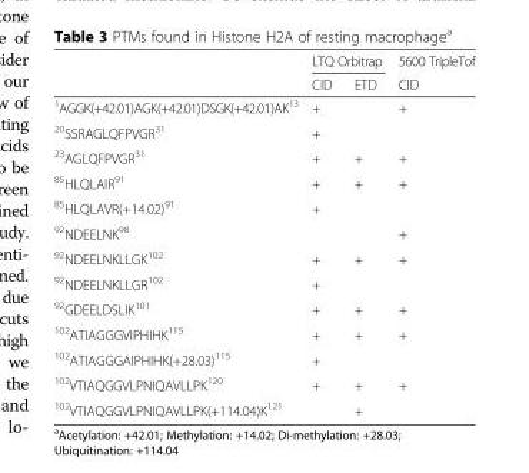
<table><thead><tr><td rowspan="2"></td><td colspan="2">LTQ Orbitrap</td><td rowspan="2">5600 TripleTof CID</td></tr><tr><td>CID</td><td>ETD</td></tr></thead><tbody><tr><td><sup>1</sup>AGGK(+42.01)AGK(+42.01)DSGK(+42.01)AK<sup>13</sup></td><td>+</td><td></td><td>+</td></tr><tr><td><sup>20</sup>SSRAGLQFPVGR<sup>31</sup></td><td>+</td><td></td><td></td></tr><tr><td><sup>23</sup>AGLQFPVGR<sup>31</sup></td><td>+</td><td>+</td><td>+</td></tr><tr><td><sup>85</sup>HLQLAIR<sup>91</sup></td><td>+</td><td>+</td><td>+</td></tr><tr><td><sup>85</sup>HLQLAVR(+14.02)<sup>91</sup></td><td>+</td><td></td><td></td></tr><tr><td><sup>92</sup>NDEELNK<sup>98</sup></td><td></td><td></td><td>+</td></tr><tr><td><sup>92</sup>NDEELNKLLGK<sup>102</sup></td><td>+</td><td>+</td><td>+</td></tr><tr><td><sup>92</sup>NDEELNKLLGR<sup>102</sup></td><td>+</td><td></td><td></td></tr><tr><td><sup>92</sup>GDEELDSLIK<sup>101</sup></td><td>+</td><td>+</td><td>+</td></tr><tr><td><sup>102</sup>ATIAGGGVIPHIHK<sup>115</sup></td><td>+</td><td>+</td><td>+</td></tr><tr><td><sup>102</sup>ATIAGGGAIPHIHK(+28.03)<sup>115</sup></td><td>+</td><td></td><td></td></tr><tr><td><sup>102</sup>VTIAQGGVLPNIQAVLLPK<sup>120</sup></td><td>+</td><td>+</td><td>+</td></tr><tr><td><sup>102</sup>VTIAQGGVLPNIQAVLLPK(+114.04)K<sup>121</sup></td><td></td><td>+</td><td></td></tr></tbody></table>